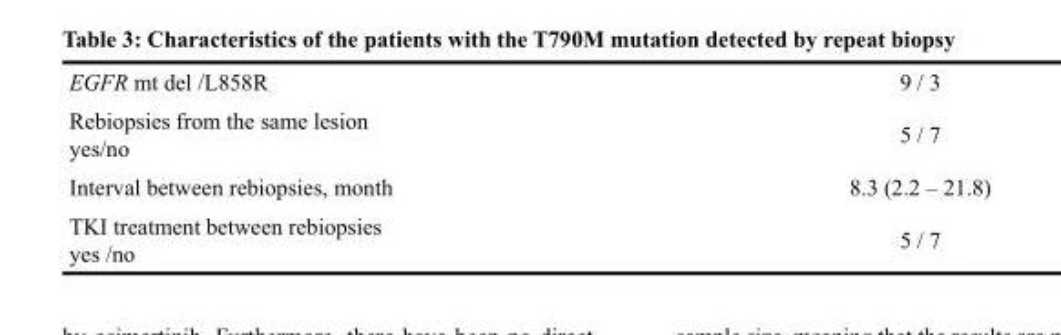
<table><tbody><tr><td>EGFR mt del /L858R</td><td>9 / 3</td></tr><tr><td>Rebiopsies from the same lesion yes/no</td><td>5 / 7</td></tr><tr><td>Interval between rebiopsies, month</td><td>8.3 (2.2 – 21.8)</td></tr><tr><td>TKI treatment between rebiopsies yes /no</td><td>5 / 7</td></tr></tbody></table>